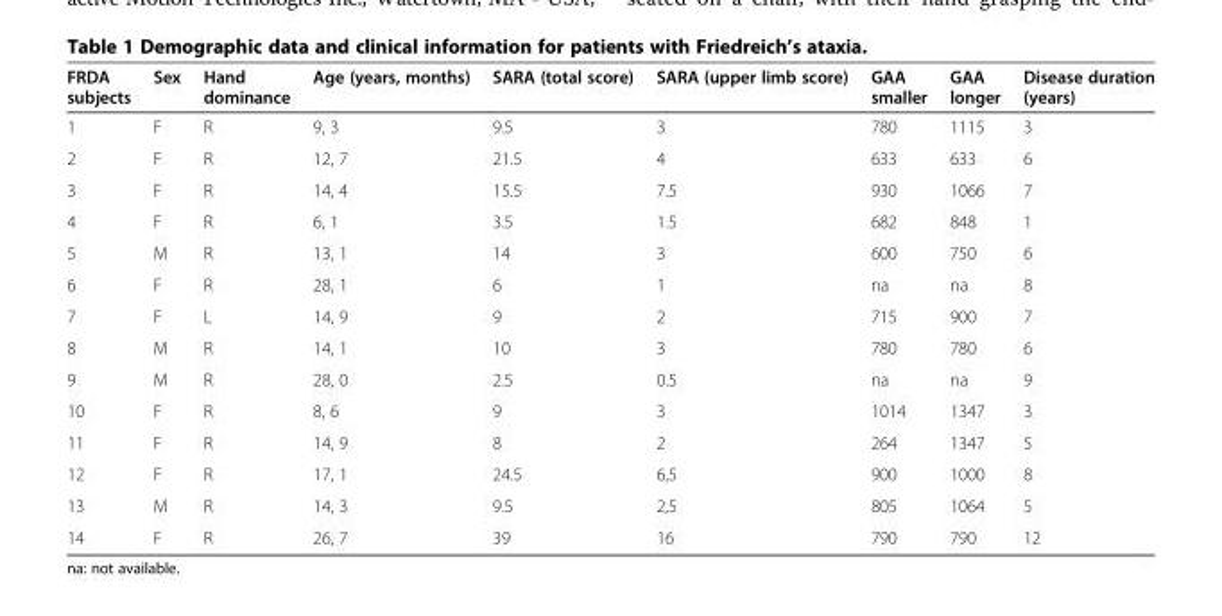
<table><thead><tr><td>FRDA subjects</td><td>Sex</td><td>Hand dominance</td><td>Age (years, months)</td><td>SARA (total score)</td><td>SARA (upper limb score)</td><td>GAA smaller</td><td>GAA longer</td><td>Disease duration (years)</td></tr></thead><tbody><tr><td>1</td><td>F</td><td>R</td><td>9, 3</td><td>9.5</td><td>3</td><td>780</td><td>1115</td><td>3</td></tr><tr><td>2</td><td>F</td><td>R</td><td>12, 7</td><td>21.5</td><td>4</td><td>633</td><td>633</td><td>6</td></tr><tr><td>3</td><td>F</td><td>R</td><td>14, 4</td><td>15.5</td><td>7.5</td><td>930</td><td>1066</td><td>7</td></tr><tr><td>4</td><td>F</td><td>R</td><td>6, 1</td><td>3.5</td><td>1.5</td><td>682</td><td>848</td><td>1</td></tr><tr><td>5</td><td>M</td><td>R</td><td>13, 1</td><td>14</td><td>3</td><td>600</td><td>750</td><td>6</td></tr><tr><td>6</td><td>F</td><td>R</td><td>28, 1</td><td>6</td><td>1</td><td>na</td><td>na</td><td>8</td></tr><tr><td>7</td><td>F</td><td>L</td><td>14, 9</td><td>9</td><td>2</td><td>715</td><td>900</td><td>7</td></tr><tr><td>8</td><td>M</td><td>R</td><td>14, 1</td><td>10</td><td>3</td><td>780</td><td>780</td><td>6</td></tr><tr><td>9</td><td>M</td><td>R</td><td>28, 0</td><td>2.5</td><td>0.5</td><td>na</td><td>na</td><td>9</td></tr><tr><td>10</td><td>F</td><td>R</td><td>8, 6</td><td>9</td><td>3</td><td>1014</td><td>1347</td><td>3</td></tr><tr><td>11</td><td>F</td><td>R</td><td>14, 9</td><td>8</td><td>2</td><td>264</td><td>1347</td><td>5</td></tr><tr><td>12</td><td>F</td><td>R</td><td>17, 1</td><td>24.5</td><td>6,5</td><td>900</td><td>1000</td><td>8</td></tr><tr><td>13</td><td>M</td><td>R</td><td>14, 3</td><td>9.5</td><td>2,5</td><td>805</td><td>1064</td><td>5</td></tr><tr><td>14</td><td>F</td><td>R</td><td>26, 7</td><td>39</td><td>16</td><td>790</td><td>790</td><td>12</td></tr></tbody></table>